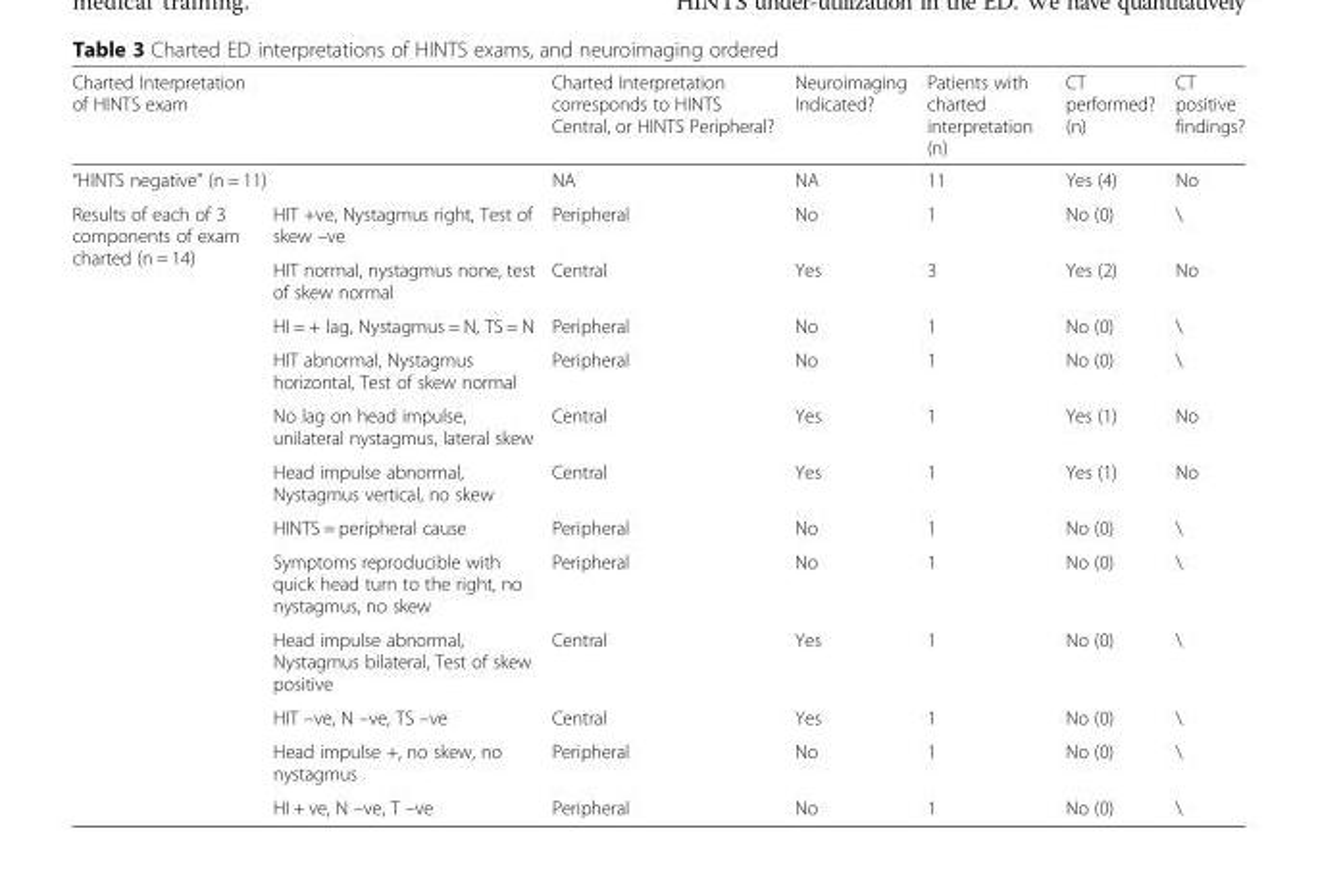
<table><thead><tr><td>Charted Interpretation of HINTS exam</td><td></td><td>Charted Interpretation corresponds to HINTS Central, or HINTS Peripheral?</td><td>Neuroimaging Indicated?</td><td>Patients with charted interpretation (n)</td><td>CT performed? (n)</td><td>CT positive findings?</td></tr></thead><tbody><tr><td colspan="2">“HINTS negative” (n = 11)</td><td>NA</td><td>NA</td><td>11</td><td>Yes (4)</td><td>No</td></tr><tr><td rowspan="12">Results of each of 3 components of exam charted (n = 14)</td><td>HIT +ve, Nystagmus right, Test of skew –ve</td><td>Peripheral</td><td>No</td><td>1</td><td>No (0)</td><td>\</td></tr><tr><td>HIT normal, nystagmus none, test of skew normal</td><td>Central</td><td>Yes</td><td>3</td><td>Yes (2)</td><td>No</td></tr><tr><td>HI = + lag, Nystagmus = N, TS = N</td><td>Peripheral</td><td>No</td><td>1</td><td>No (0)</td><td>\</td></tr><tr><td>HIT abnormal, Nystagmus horizontal, Test of skew normal</td><td>Peripheral</td><td>No</td><td>1</td><td>No (0)</td><td>\</td></tr><tr><td>No lag on head impulse, unilateral nystagmus, lateral skew</td><td>Central</td><td>Yes</td><td>1</td><td>Yes (1)</td><td>No</td></tr><tr><td>Head impulse abnormal, Nystagmus vertical, no skew</td><td>Central</td><td>Yes</td><td>1</td><td>Yes (1)</td><td>No</td></tr><tr><td>HINTS = peripheral cause</td><td>Peripheral</td><td>No</td><td>1</td><td>No (0)</td><td>\</td></tr><tr><td>Symptoms reproducible with quick head turn to the right, no nystagmus, no skew</td><td>Peripheral</td><td>No</td><td>1</td><td>No (0)</td><td>\</td></tr><tr><td>Head impulse abnormal, Nystagmus bilateral, Test of skew positive</td><td>Central</td><td>Yes</td><td>1</td><td>No (0)</td><td>\</td></tr><tr><td>HIT –ve, N –ve, TS –ve</td><td>Central</td><td>Yes</td><td>1</td><td>No (0)</td><td>\</td></tr><tr><td>Head impulse +, no skew, no nystagmus</td><td>Peripheral</td><td>No</td><td>1</td><td>No (0)</td><td>\</td></tr><tr><td>HI + ve, N –ve, T –ve</td><td>Peripheral</td><td>No</td><td>1</td><td>No (0)</td><td>\</td></tr></tbody></table>